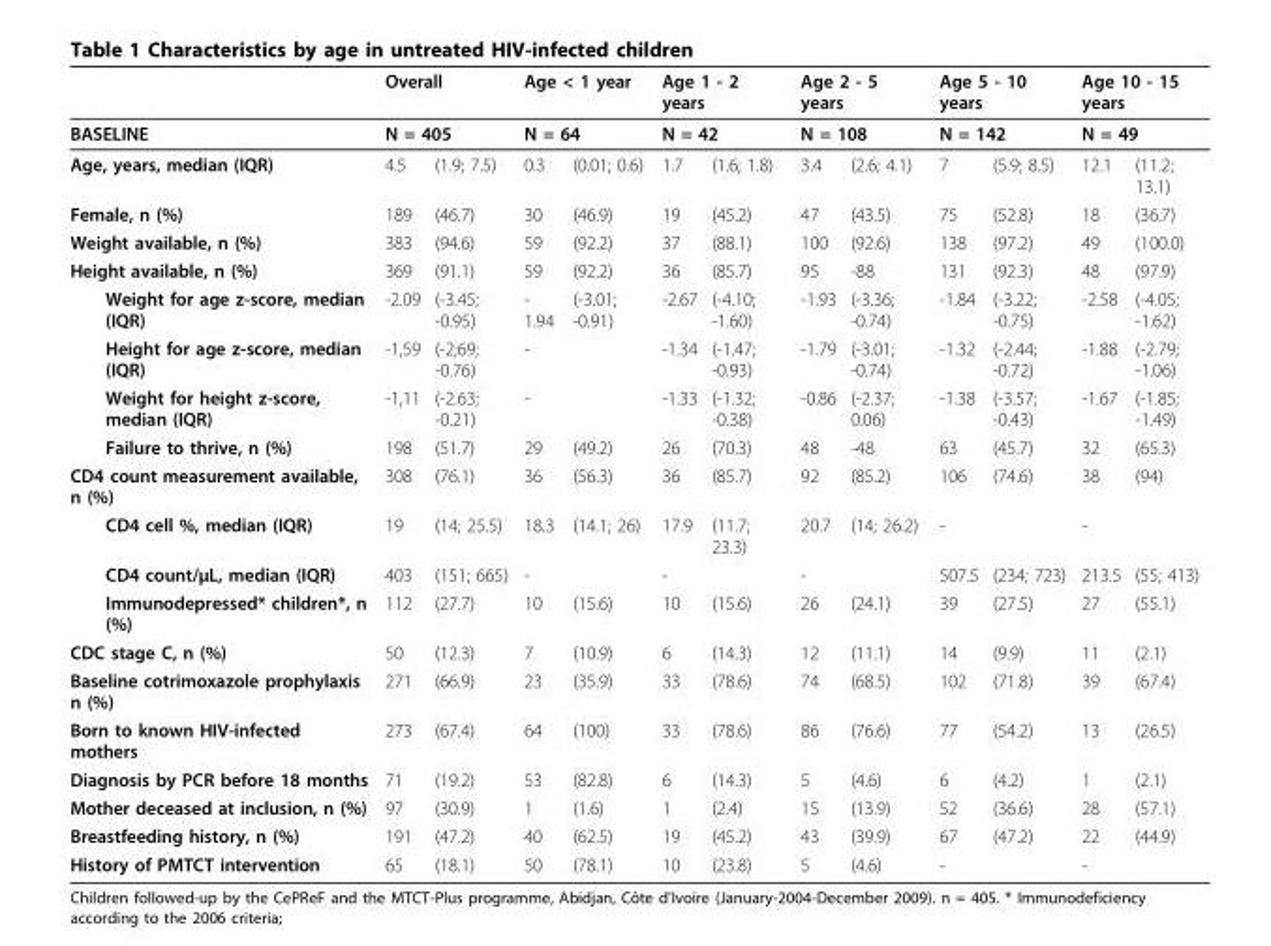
<table><thead><tr><td rowspan="3">BASELINE Age, years, median (IQR)</td><td rowspan="2" colspan="2">Overall N = 405</td><td rowspan="2" colspan="2">Age &lt; 1 year N = 64</td><td rowspan="2" colspan="2">Age 1 - 2 years N = 42</td><td rowspan="2" colspan="2">Age 2 - 5 years N = 108</td><td rowspan="2" colspan="2">Age 5 - 10 years N = 142</td><td rowspan="2" colspan="2">Age 10 - 15 years N = 49</td></tr><tr></tr><tr><td>4.5</td><td>(1.9; 7.5)</td><td>0.3</td><td>(0.01; 0.6)</td><td>1.7</td><td>(1.6; 1.8)</td><td>3.4</td><td>(2.6; 4.1)</td><td>7</td><td>(5.9; 8.5)</td><td>12.1</td><td>(11.2; 13.1)</td></tr></thead><tbody><tr><td>Female, n (%)</td><td>189</td><td>(46.7)</td><td>30</td><td>(46.9)</td><td>19</td><td>(45.2)</td><td>47</td><td>(43.5)</td><td>75</td><td>(52.8)</td><td>18</td><td>(36.7)</td></tr><tr><td>Weight available, n (%)</td><td>383</td><td>(94.6)</td><td>59</td><td>(92.2)</td><td>37</td><td>(88.1)</td><td>100</td><td>(92.6)</td><td>138</td><td>(97.2)</td><td>49</td><td>(100.0)</td></tr><tr><td>Height available, n (%)</td><td>369</td><td>(91.1)</td><td>59</td><td>(92.2)</td><td>36</td><td>(85.7)</td><td>95</td><td>-88</td><td>131</td><td>(92.3)</td><td>48</td><td>(97.9)</td></tr><tr><td>Weight for age z-score, median (IQR)</td><td>-2.09</td><td>(-3.45; -0.95)</td><td>- 1.94</td><td>(-3.01; -0.91)</td><td>-2.67</td><td>(-4.10; -1.60)</td><td>-1.93</td><td>(-3.36; -0.74)</td><td>-1.84</td><td>(-3.22; -0.75)</td><td>-2.58</td><td>(-4.05; -1.62)</td></tr><tr><td>Height for age z-score, median (IQR)</td><td>-1,59</td><td>(-2;69; -0.76)</td><td colspan="2">-</td><td>-1.34</td><td>(-1.47; -0.93)</td><td>-1.79</td><td>(-3.01; -0.74)</td><td>-1.32</td><td>(-2.44; -0.72)</td><td>-1.88</td><td>(-2.79; -1.06)</td></tr><tr><td>Weight for height z-score, median (IQR)</td><td>-1,11</td><td>(-2.63; -0.21)</td><td colspan="2">-</td><td>-1.33</td><td>(-1.32; -0.38)</td><td>-0.86</td><td>(-2.37; 0.06)</td><td>-1.38</td><td>(-3.57; -0.43)</td><td>-1.67</td><td>(-1.85; -1.49)</td></tr><tr><td>Failure to thrive, n (%)</td><td>198</td><td>(51.7)</td><td>29</td><td>(49.2)</td><td>26</td><td>(70.3)</td><td>48</td><td>-48</td><td>63</td><td>(45.7)</td><td>32</td><td>(65.3)</td></tr><tr><td>CD4 count measurement available, n (%)</td><td>308</td><td>(76.1)</td><td>36</td><td>(56.3)</td><td>36</td><td>(85.7)</td><td>92</td><td>(85.2)</td><td>106</td><td>(74.6)</td><td>38</td><td>(94)</td></tr><tr><td>CD4 cell %, median (IQR)</td><td>19</td><td>(14; 25.5)</td><td>18.3</td><td>(14.1; 26)</td><td>17.9</td><td>(11.7; 23.3)</td><td>20.7</td><td>(14; 26.2)</td><td colspan="2">-</td><td colspan="2">-</td></tr><tr><td>CD4 count/μL, median (IQR)</td><td>403</td><td>(151; 665)</td><td>-</td><td></td><td colspan="2">-</td><td colspan="2">-</td><td>507.5</td><td>(234; 723)</td><td>213.5</td><td>(55; 413)</td></tr><tr><td>Immunodepressed* children*, n (%)</td><td>112</td><td>(27.7)</td><td>10</td><td>(15.6)</td><td>10</td><td>(15.6)</td><td>26</td><td>(24.1)</td><td>39</td><td>(27.5)</td><td>27</td><td>(55.1)</td></tr><tr><td>CDC stage C, n (%)</td><td>50</td><td>(12.3)</td><td>7</td><td>(10.9)</td><td>6</td><td>(14.3)</td><td>12</td><td>(11.1)</td><td>14</td><td>(9.9)</td><td>11</td><td>(2.1)</td></tr><tr><td>Baseline cotrimoxazole prophylaxis n (%)</td><td>271</td><td>(66.9)</td><td>23</td><td>(35.9)</td><td>33</td><td>(78.6)</td><td>74</td><td>(68.5)</td><td>102</td><td>(71.8)</td><td>39</td><td>(67.4)</td></tr><tr><td>Born to known HIV-infected mothers</td><td>273</td><td>(67.4)</td><td>64</td><td>(100)</td><td>33</td><td>(78.6)</td><td>86</td><td>(76.6)</td><td>77</td><td>(54.2)</td><td>13</td><td>(26.5)</td></tr><tr><td>Diagnosis by PCR before 18 months</td><td>71</td><td>(19.2)</td><td>53</td><td>(82.8)</td><td>6</td><td>(14.3)</td><td>5</td><td>(4.6)</td><td>6</td><td>(4.2)</td><td>1</td><td>(2.1)</td></tr><tr><td>Mother deceased at inclusion, n (%)</td><td>97</td><td>(30.9)</td><td>1</td><td>(1.6)</td><td>1</td><td>(2.4)</td><td>15</td><td>(13.9)</td><td>52</td><td>(36.6)</td><td>28</td><td>(57.1)</td></tr><tr><td>Breastfeeding history, n (%)</td><td>191</td><td>(47.2)</td><td>40</td><td>(62.5)</td><td>19</td><td>(45.2)</td><td>43</td><td>(39.9)</td><td>67</td><td>(47.2)</td><td>22</td><td>(44.9)</td></tr><tr><td>History of PMTCT intervention</td><td>65</td><td>(18.1)</td><td>50</td><td>(78.1)</td><td>10</td><td>(23.8)</td><td>5</td><td>(4.6)</td><td colspan="2">-</td><td colspan="2">-</td></tr></tbody></table>